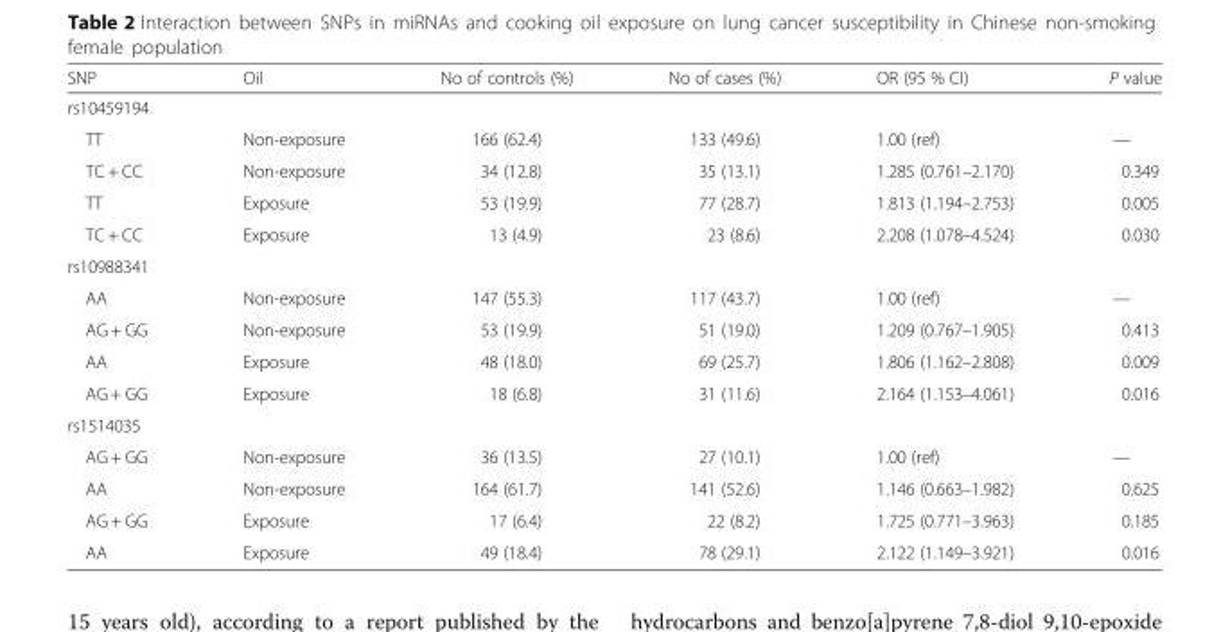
<table><thead><tr><td>SNP</td><td>Oil</td><td>No of controls (%)</td><td>No of cases (%)</td><td>OR (95 % CI)</td><td>P value</td></tr></thead><tbody><tr><td colspan="6">rs10459194</td></tr><tr><td>TT</td><td>Non-exposure</td><td>166 (62.4)</td><td>133 (49.6)</td><td>1.00 (ref)</td><td>—</td></tr><tr><td>TC + CC</td><td>Non-exposure</td><td>34 (12.8)</td><td>35 (13.1)</td><td>1.285 (0.761–2.170)</td><td>0.349</td></tr><tr><td>TT</td><td>Exposure</td><td>53 (19.9)</td><td>77 (28.7)</td><td>1.813 (1.194–2.753)</td><td>0.005</td></tr><tr><td>TC + CC</td><td>Exposure</td><td>13 (4.9)</td><td>23 (8.6)</td><td>2.208 (1.078–4.524)</td><td>0.030</td></tr><tr><td colspan="6">rs10988341</td></tr><tr><td>AA</td><td>Non-exposure</td><td>147 (55.3)</td><td>117 (43.7)</td><td>1.00 (ref)</td><td>—</td></tr><tr><td>AG + GG</td><td>Non-exposure</td><td>53 (19.9)</td><td>51 (19.0)</td><td>1.209 (0.767–1.905)</td><td>0.413</td></tr><tr><td>AA</td><td>Exposure</td><td>48 (18.0)</td><td>69 (25.7)</td><td>1.806 (1.162–2.808)</td><td>0.009</td></tr><tr><td>AG + GG</td><td>Exposure</td><td>18 (6.8)</td><td>31 (11.6)</td><td>2.164 (1.153–4.061)</td><td>0.016</td></tr><tr><td colspan="6">rs1514035</td></tr><tr><td>AG + GG</td><td>Non-exposure</td><td>36 (13.5)</td><td>27 (10.1)</td><td>1.00 (ref)</td><td>—</td></tr><tr><td>AA</td><td>Non-exposure</td><td>164 (61.7)</td><td>141 (52.6)</td><td>1.146 (0.663–1.982)</td><td>0.625</td></tr><tr><td>AG + GG</td><td>Exposure</td><td>17 (6.4)</td><td>22 (8.2)</td><td>1.725 (0.771–3.963)</td><td>0.185</td></tr><tr><td>AA</td><td>Exposure</td><td>49 (18.4)</td><td>78 (29.1)</td><td>2.122 (1.149–3.921)</td><td>0.016</td></tr></tbody></table>